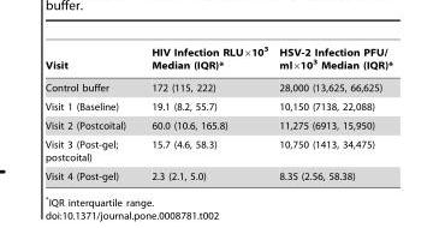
<table><thead><tr><td>Visit</td><td>HIV Infection RLU×10<sup>3</sup> Median (IQR)*</td><td>HSV-2 Infection PFU/ ml×10<sup>3</sup> Median (IQR)*</td></tr></thead><tbody><tr><td>Control buffer</td><td>172 (115, 222)</td><td>28,000 (13,625, 66,625)</td></tr><tr><td>Visit 1 (Baseline)</td><td>19.1 (8.2, 55.7)</td><td>10,150 (7138, 22,088)</td></tr><tr><td>Visit 2 (Postcoital)</td><td>60.0 (10.6, 165.8)</td><td>11,275 (6913, 15,950)</td></tr><tr><td>Visit 3 (Post-gel; postcoital)</td><td>15.7 (4.6, 58.3)</td><td>10,750 (1413, 34,475)</td></tr><tr><td>Visit 4 (Post-gel)</td><td>2.3 (2.1, 5.0)</td><td>8.35 (2.56, 58.38)</td></tr></tbody></table>